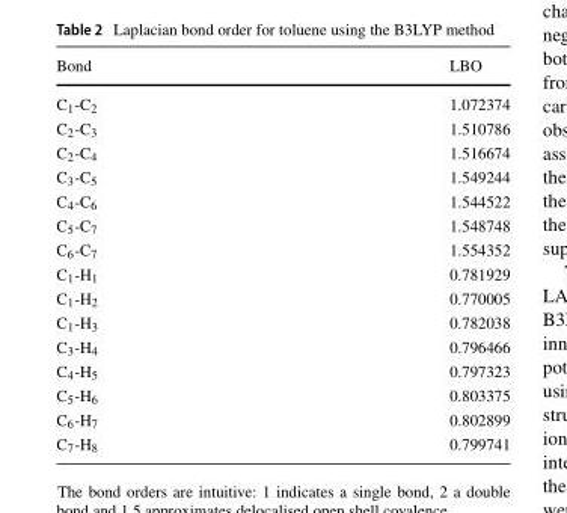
<table><thead><tr><td>Bond</td><td>LBO</td></tr></thead><tbody><tr><td>C<sub>1</sub>-C<sub>2</sub></td><td>1.072374</td></tr><tr><td>C<sub>2</sub>-C<sub>3</sub></td><td>1.510786</td></tr><tr><td>C<sub>2</sub>-C<sub>4</sub></td><td>1.516674</td></tr><tr><td>C<sub>3</sub>-C<sub>5</sub></td><td>1.549244</td></tr><tr><td>C<sub>4</sub>-C<sub>6</sub></td><td>1.544522</td></tr><tr><td>C<sub>5</sub>-C<sub>7</sub></td><td>1.548748</td></tr><tr><td>C<sub>6</sub>-C<sub>7</sub></td><td>1.554352</td></tr><tr><td>C<sub>1</sub>-H<sub>1</sub></td><td>0.781929</td></tr><tr><td>C<sub>1</sub>-H<sub>2</sub></td><td>0.770005</td></tr><tr><td>C<sub>1</sub>-H<sub>3</sub></td><td>0.782038</td></tr><tr><td>C<sub>3</sub>-H<sub>4</sub></td><td>0.796466</td></tr><tr><td>C<sub>4</sub>-H<sub>5</sub></td><td>0.797323</td></tr><tr><td>C<sub>5</sub>-H<sub>6</sub></td><td>0.803375</td></tr><tr><td>C<sub>6</sub>-H<sub>7</sub></td><td>0.802899</td></tr><tr><td>C<sub>7</sub>-H<sub>8</sub></td><td>0.799741</td></tr></tbody></table>